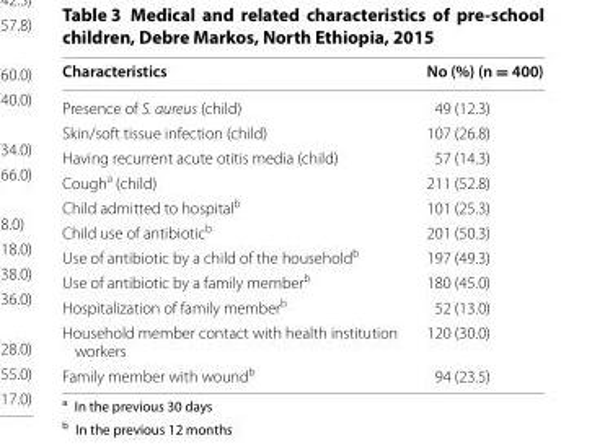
<table><thead><tr><td>Characteristics</td><td>No (%) (n = 400)</td></tr></thead><tbody><tr><td>Presence of S. aureus (child)</td><td>49 (12.3)</td></tr><tr><td>Skin/soft tissue infection (child)</td><td>107 (26.8)</td></tr><tr><td>Having recurrent acute otitis media (child)</td><td>57 (14.3)</td></tr><tr><td>Cough<sup>a</sup> (child)</td><td>211 (52.8)</td></tr><tr><td>Child admitted to hospital<sup>b</sup></td><td>101 (25.3)</td></tr><tr><td>Child use of antibiotic<sup>b</sup></td><td>201 (50.3)</td></tr><tr><td>Use of antibiotic by a child of the household<sup>b</sup></td><td>197 (49.3)</td></tr><tr><td>Use of antibiotic by a family member<sup>b</sup></td><td>180 (45.0)</td></tr><tr><td>Hospitalization of family member<sup>b</sup></td><td>52 (13.0)</td></tr><tr><td>Household member contact with health institution workers</td><td>120 (30.0)</td></tr><tr><td>Family member with wound<sup>b</sup></td><td>94 (23.5)</td></tr></tbody></table>